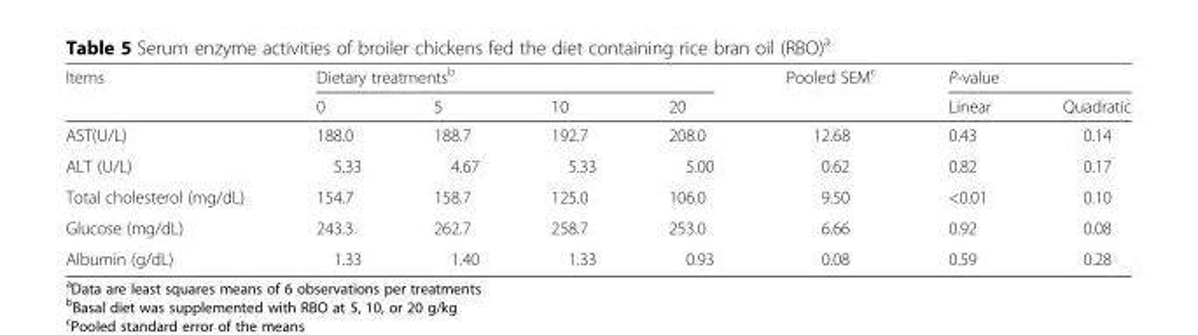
<table><thead><tr><td rowspan="2">Items</td><td colspan="4">Dietary treatments<sup>b</sup></td><td rowspan="2">Pooled SEM<sup>c</sup></td><td colspan="2">P-value</td></tr><tr><td>0</td><td>5</td><td>10</td><td>20</td><td>Linear</td><td>Quadratic</td></tr></thead><tbody><tr><td>AST(U/L)</td><td>188.0</td><td>188.7</td><td>192.7</td><td>208.0</td><td>12.68</td><td>0.43</td><td>0.14</td></tr><tr><td>ALT (U/L)</td><td>5.33</td><td>4.67</td><td>5.33</td><td>5.00</td><td>0.62</td><td>0.82</td><td>0.17</td></tr><tr><td>Total cholesterol (mg/dL)</td><td>154.7</td><td>158.7</td><td>125.0</td><td>106.0</td><td>9.50</td><td>&lt;0.01</td><td>0.10</td></tr><tr><td>Glucose (mg/dL)</td><td>243.3</td><td>262.7</td><td>258.7</td><td>253.0</td><td>6.66</td><td>0.92</td><td>0.08</td></tr><tr><td>Albumin (g/dL)</td><td>1.33</td><td>1.40</td><td>1.33</td><td>0.93</td><td>0.08</td><td>0.59</td><td>0.28</td></tr></tbody></table>